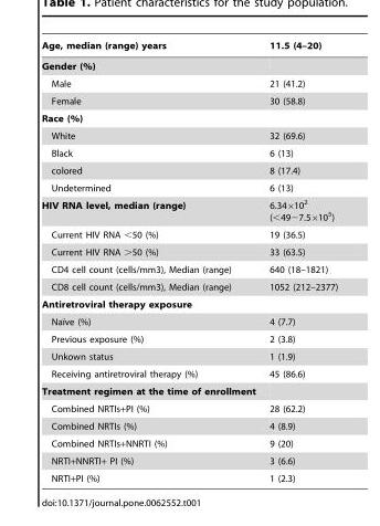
<table><thead><tr><td>Age, median (range) years</td><td>11.5 (4–20)</td></tr></thead><tbody><tr><td colspan="2">Gender (%)</td></tr><tr><td>Male</td><td>21 (41.2)</td></tr><tr><td>Female</td><td>30 (58.8)</td></tr><tr><td colspan="2">Race (%)</td></tr><tr><td>White</td><td>32 (69.6)</td></tr><tr><td>Black</td><td>6 (13)</td></tr><tr><td>colored</td><td>8 (17.4)</td></tr><tr><td>Undetermined</td><td>6 (13)</td></tr><tr><td>HIV RNA level, median (range)</td><td>6.34×10<sup>2</sup> (&lt;49−7.5×10<sup>5</sup>)</td></tr><tr><td>Current HIV RNA &lt;50 (%)</td><td>19 (36.5)</td></tr><tr><td>Current HIV RNA &gt;50 (%)</td><td>33 (63.5)</td></tr><tr><td>CD4 cell count (cells/mm3), Median (range)</td><td>640 (18–1821)</td></tr><tr><td>CD8 cell count (cells/mm3), Median (range)</td><td>1052 (212–2377)</td></tr><tr><td colspan="2">Antiretroviral therapy exposure</td></tr><tr><td>Naı¨ve (%)</td><td>4 (7.7)</td></tr><tr><td>Previous exposure (%)</td><td>2 (3.8)</td></tr><tr><td>Unkown status</td><td>1 (1.9)</td></tr><tr><td>Receiving antiretroviral therapy (%)</td><td>45 (86.6)</td></tr><tr><td colspan="2">Treatment regimen at the time of enrollment</td></tr><tr><td>Combined NRTIs+PI (%)</td><td>28 (62.2)</td></tr><tr><td>Combined NRTIs (%)</td><td>4 (8.9)</td></tr><tr><td>Combined NRTIs+NNRTI (%)</td><td>9 (20)</td></tr><tr><td>NRTI+NNRTI+ PI (%)</td><td>3 (6.6)</td></tr><tr><td>NRTI+PI (%)</td><td>1 (2.3)</td></tr></tbody></table>